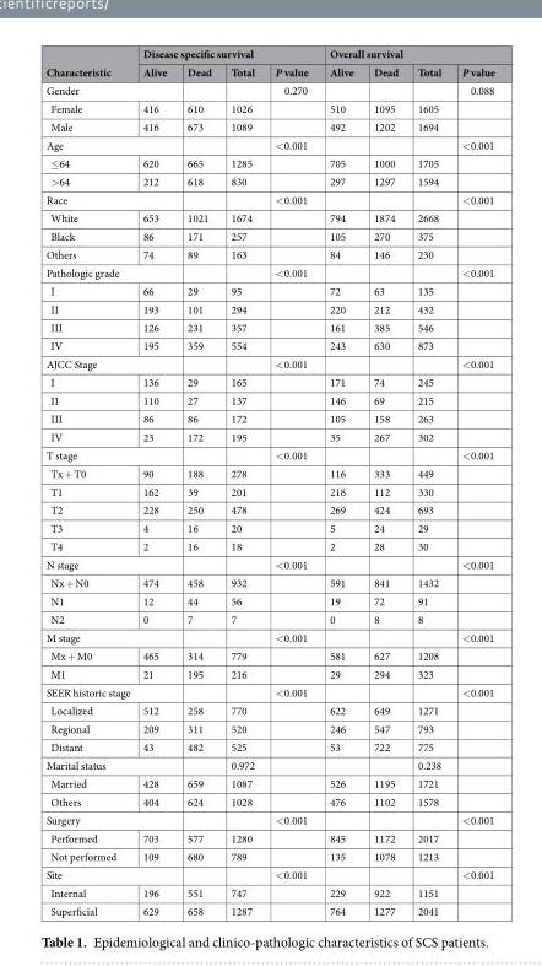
<table><thead><tr><td rowspan="2">Characteristic</td><td colspan="4">Disease specific survival</td><td colspan="4">Overall survival</td></tr><tr><td>Alive</td><td>Dead</td><td>Total</td><td>P value</td><td>Alive</td><td>Dead</td><td>Total</td><td>P value</td></tr></thead><tbody><tr><td colspan="2">Gender</td><td></td><td></td><td>0.270</td><td></td><td></td><td></td><td>0.088</td></tr><tr><td>Female</td><td>416</td><td>610</td><td>1026</td><td></td><td>510</td><td>1095</td><td>1605</td><td></td></tr><tr><td>Male</td><td>416</td><td>673</td><td>1089</td><td></td><td>492</td><td>1202</td><td>1694</td><td></td></tr><tr><td colspan="2">Age</td><td></td><td></td><td>&lt;0.001</td><td></td><td></td><td></td><td>&lt;0.001</td></tr><tr><td>≤64</td><td>620</td><td>665</td><td>1285</td><td></td><td>705</td><td>1000</td><td>1705</td><td></td></tr><tr><td>&gt;64</td><td>212</td><td>618</td><td>830</td><td></td><td>297</td><td>1297</td><td>1594</td><td></td></tr><tr><td colspan="2">Race</td><td></td><td></td><td>&lt;0.001</td><td></td><td></td><td></td><td>&lt;0.001</td></tr><tr><td>White</td><td>653</td><td>1021</td><td>1674</td><td></td><td>794</td><td>1874</td><td>2668</td><td></td></tr><tr><td>Black</td><td>86</td><td>171</td><td>257</td><td></td><td>105</td><td>270</td><td>375</td><td></td></tr><tr><td>Others</td><td>74</td><td>89</td><td>163</td><td></td><td>84</td><td>146</td><td>230</td><td></td></tr><tr><td colspan="2">Pathologic grade</td><td></td><td></td><td>&lt;0.001</td><td></td><td></td><td></td><td>&lt;0.001</td></tr><tr><td>I</td><td>66</td><td>29</td><td>95</td><td></td><td>72</td><td>63</td><td>135</td><td></td></tr><tr><td>II</td><td>193</td><td>101</td><td>294</td><td></td><td>220</td><td>212</td><td>432</td><td></td></tr><tr><td>III</td><td>126</td><td>231</td><td>357</td><td></td><td>161</td><td>385</td><td>546</td><td></td></tr><tr><td>IV</td><td>195</td><td>359</td><td>554</td><td></td><td>243</td><td>630</td><td>873</td><td></td></tr><tr><td colspan="2">AJCC Stage</td><td></td><td></td><td>&lt;0.001</td><td></td><td></td><td></td><td>&lt;0.001</td></tr><tr><td>I</td><td>136</td><td>29</td><td>165</td><td></td><td>171</td><td>74</td><td>245</td><td></td></tr><tr><td>II</td><td>110</td><td>27</td><td>137</td><td></td><td>146</td><td>69</td><td>215</td><td></td></tr><tr><td>III</td><td>86</td><td>86</td><td>172</td><td></td><td>105</td><td>158</td><td>263</td><td></td></tr><tr><td>IV</td><td>23</td><td>172</td><td>195</td><td></td><td>35</td><td>267</td><td>302</td><td></td></tr><tr><td colspan="2">T stage</td><td></td><td></td><td>&lt;0.001</td><td></td><td></td><td></td><td>&lt;0.001</td></tr><tr><td>Tx + T0</td><td>90</td><td>188</td><td>278</td><td></td><td>116</td><td>333</td><td>449</td><td></td></tr><tr><td>T1</td><td>162</td><td>39</td><td>201</td><td></td><td>218</td><td>112</td><td>330</td><td></td></tr><tr><td>T2</td><td>228</td><td>250</td><td>478</td><td></td><td>269</td><td>424</td><td>693</td><td></td></tr><tr><td>T3</td><td>4</td><td>16</td><td>20</td><td></td><td>5</td><td>24</td><td>29</td><td></td></tr><tr><td>T4</td><td>2</td><td>16</td><td>18</td><td></td><td>2</td><td>28</td><td>30</td><td></td></tr><tr><td colspan="2">N stage</td><td></td><td></td><td>&lt;0.001</td><td></td><td></td><td></td><td>&lt;0.001</td></tr><tr><td>Nx + N0</td><td>474</td><td>458</td><td>932</td><td></td><td>591</td><td>841</td><td>1432</td><td></td></tr><tr><td>N1</td><td>12</td><td>44</td><td>56</td><td></td><td>19</td><td>72</td><td>91</td><td></td></tr><tr><td>N2</td><td>0</td><td>7</td><td>7</td><td></td><td>0</td><td>8</td><td>8</td><td></td></tr><tr><td colspan="2">M stage</td><td></td><td></td><td>&lt;0.001</td><td></td><td></td><td></td><td>&lt;0.001</td></tr><tr><td>Mx + M0</td><td>465</td><td>314</td><td>779</td><td></td><td>581</td><td>627</td><td>1208</td><td></td></tr><tr><td>M1</td><td>21</td><td>195</td><td>216</td><td></td><td>29</td><td>294</td><td>323</td><td></td></tr><tr><td colspan="2">SEER historic stage</td><td></td><td></td><td>&lt;0.001</td><td></td><td></td><td></td><td>&lt;0.001</td></tr><tr><td>Localized</td><td>512</td><td>258</td><td>770</td><td></td><td>622</td><td>649</td><td>1271</td><td></td></tr><tr><td>Regional</td><td>209</td><td>311</td><td>520</td><td></td><td>246</td><td>547</td><td>793</td><td></td></tr><tr><td>Distant</td><td>43</td><td>482</td><td>525</td><td></td><td>53</td><td>722</td><td>775</td><td></td></tr><tr><td colspan="2">Marital status</td><td></td><td>0.972</td><td></td><td></td><td></td><td>0.238</td><td></td></tr><tr><td>Married</td><td>428</td><td>659</td><td>1087</td><td></td><td>526</td><td>1195</td><td>1721</td><td></td></tr><tr><td>Others</td><td>404</td><td>624</td><td>1028</td><td></td><td>476</td><td>1102</td><td>1578</td><td></td></tr><tr><td colspan="2">Surgery</td><td></td><td></td><td>&lt;0.001</td><td></td><td></td><td></td><td>&lt;0.001</td></tr><tr><td>Performed</td><td>703</td><td>577</td><td>1280</td><td></td><td>845</td><td>1172</td><td>2017</td><td></td></tr><tr><td>Not performed</td><td>109</td><td>680</td><td>789</td><td></td><td>135</td><td>1078</td><td>1213</td><td></td></tr><tr><td colspan="2">Site</td><td></td><td></td><td>&lt;0.001</td><td></td><td></td><td></td><td>&lt;0.001</td></tr><tr><td>Internal</td><td>196</td><td>551</td><td>747</td><td></td><td>229</td><td>922</td><td>1151</td><td></td></tr><tr><td>Superficial</td><td>629</td><td>658</td><td>1287</td><td></td><td>764</td><td>1277</td><td>2041</td><td></td></tr></tbody></table>